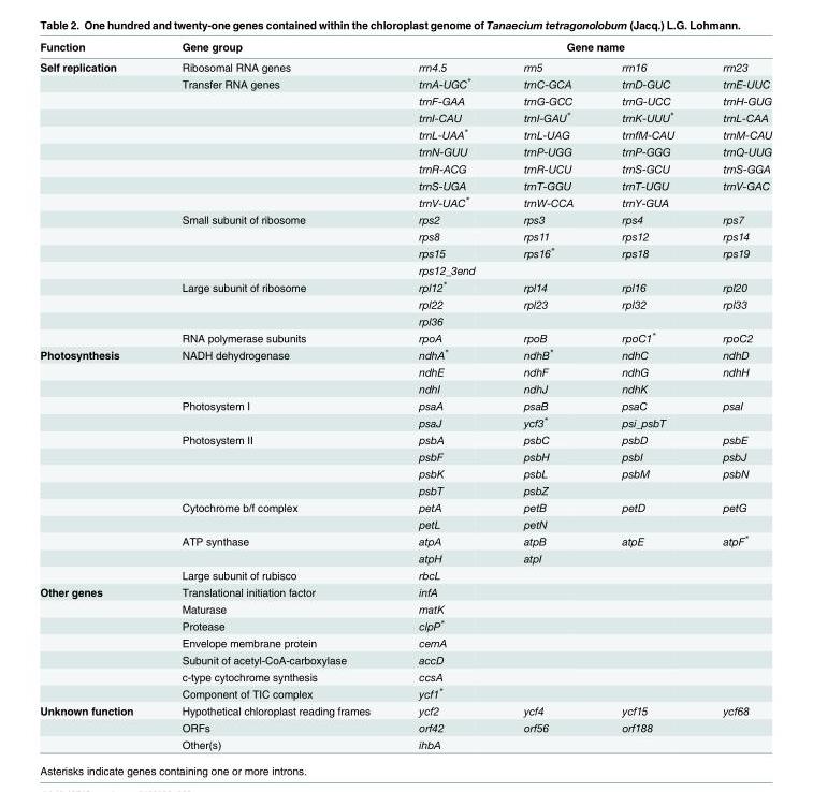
<table><thead><tr><td rowspan="2">Function Self replication</td><td rowspan="2">Gene group Ribosomal RNA genes</td><td colspan="4">Gene name</td></tr><tr><td>rrn4.5</td><td>rrn5</td><td>rrn16</td><td>rrn23</td></tr></thead><tbody><tr><td></td><td>Transfer RNA genes</td><td>trnA-UGC*</td><td>trnC-GCA</td><td>trnD-GUC</td><td>trnE-UUC</td></tr><tr><td></td><td></td><td>trnF-GAA</td><td>trnG-GCC</td><td>trnG-UCC</td><td>trnH-GUG</td></tr><tr><td></td><td></td><td>trnI-CAU</td><td>trnI-GAU*</td><td>trnK-UUU*</td><td>trnL-CAA</td></tr><tr><td></td><td></td><td>trnL-UAA*</td><td>trnL-UAG</td><td>trnfM-CAU</td><td>trnM-CAU</td></tr><tr><td></td><td></td><td>trnN-GUU</td><td>trnP-UGG</td><td>trnP-GGG</td><td>trnQ-UUG</td></tr><tr><td></td><td></td><td>trnR-ACG</td><td>trnR-UCU</td><td>trnS-GCU</td><td>trnS-GGA</td></tr><tr><td></td><td></td><td>trnS-UGA</td><td>trnT-GGU</td><td>trnT-UGU</td><td>trnV-GAC</td></tr><tr><td></td><td></td><td>trnV-UAC*</td><td>trnW-CCA</td><td>trnY-GUA</td><td></td></tr><tr><td></td><td>Small subunit of ribosome</td><td>rps2</td><td>rps3</td><td>rps4</td><td>rps7</td></tr><tr><td></td><td></td><td>rps8</td><td>rps11</td><td>rps12</td><td>rps14</td></tr><tr><td></td><td></td><td>rps15</td><td>rps16*</td><td>rps18</td><td>rps19</td></tr><tr><td></td><td></td><td>rps12_3end</td><td></td><td></td><td></td></tr><tr><td></td><td>Large subunit of ribosome</td><td>rpl12*</td><td>rpl14</td><td>rpl16</td><td>rpl20</td></tr><tr><td></td><td></td><td>rpl22</td><td>rpl23</td><td>rpl32</td><td>rpl33</td></tr><tr><td></td><td></td><td>rpl36</td><td></td><td></td><td></td></tr><tr><td></td><td>RNA polymerase subunits</td><td>rpoA</td><td>rpoB</td><td>rpoC1*</td><td>rpoC2</td></tr><tr><td rowspan="14">Photosynthesis</td><td>NADH dehydrogenase</td><td>ndhA*</td><td>ndhB*</td><td>ndhC</td><td>ndhD</td></tr><tr><td></td><td>ndhE</td><td>ndhF</td><td>ndhG</td><td>ndhH</td></tr><tr><td></td><td>ndhI</td><td>ndhJ</td><td>ndhK</td><td></td></tr><tr><td>Photosystem I</td><td>psaA</td><td>psaB</td><td>psaC</td><td>psaI</td></tr><tr><td></td><td>psaJ</td><td>ycf3*</td><td>psi_psbT</td><td></td></tr><tr><td>Photosystem II</td><td>psbA</td><td>psbC</td><td>psbD</td><td>psbE</td></tr><tr><td></td><td>psbF</td><td>psbH</td><td>psbI</td><td>psbJ</td></tr><tr><td></td><td>psbK</td><td>psbL</td><td>psbM</td><td>psbN</td></tr><tr><td></td><td>psbT</td><td>psbZ</td><td></td><td></td></tr><tr><td>Cytochrome b/f complex</td><td>petA</td><td>petB</td><td>petD</td><td>petG</td></tr><tr><td></td><td>petL</td><td>petN</td><td></td><td></td></tr><tr><td>ATP synthase</td><td>atpA</td><td>atpB</td><td>atpE</td><td>atpF*</td></tr><tr><td></td><td>atpH</td><td>atpI</td><td></td><td></td></tr><tr><td>Large subunit of rubisco</td><td>rbcL</td><td></td><td></td><td></td></tr><tr><td rowspan="7">Other genes</td><td>Translational initiation factor</td><td>infA</td><td></td><td></td><td></td></tr><tr><td>Maturase</td><td>matK</td><td></td><td></td><td></td></tr><tr><td>Protease</td><td>clpP*</td><td></td><td></td><td></td></tr><tr><td>Envelope membrane protein</td><td>cemA</td><td></td><td></td><td></td></tr><tr><td>Subunit of acetyl-CoA-carboxylase</td><td>accD</td><td></td><td></td><td></td></tr><tr><td>c-type cytochrome synthesis</td><td>ccsA</td><td></td><td></td><td></td></tr><tr><td>Component of TIC complex</td><td>ycf1*</td><td></td><td></td><td></td></tr><tr><td rowspan="3">Unknown function</td><td>Hypothetical chloroplast reading frames</td><td>ycf2</td><td>ycf4</td><td>ycf15</td><td>ycf68</td></tr><tr><td>ORFs</td><td>orf42</td><td>orf56</td><td>orf188</td><td></td></tr><tr><td>Other(s)</td><td>ihbA</td><td></td><td></td><td></td></tr></tbody></table>